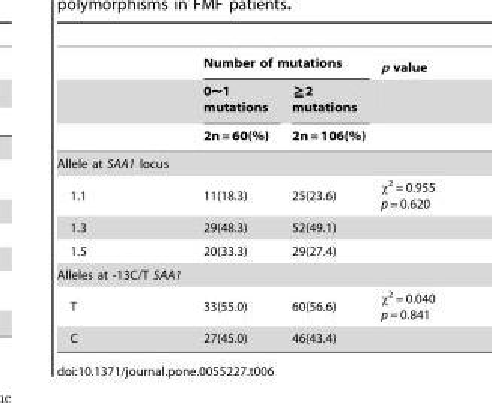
<table><thead><tr><td rowspan="3"></td><td colspan="2">Number of mutations</td><td rowspan="3">p value</td></tr><tr><td rowspan="2">0∼1 mutations 2n = 60(%)</td><td rowspan="2">≧2 mutations 2n = 106(%)</td></tr><tr></tr></thead><tbody><tr><td colspan="4">Allele at SAA1 locus</td></tr><tr><td>1.1</td><td>11(18.3)</td><td>25(23.6)</td><td>χ<sup>2</sup> = 0.955 p = 0.620</td></tr><tr><td>1.3</td><td>29(48.3)</td><td>52(49.1)</td><td></td></tr><tr><td>1.5</td><td>20(33.3)</td><td>29(27.4)</td><td></td></tr><tr><td colspan="4">Alleles at -13C/T SAA1</td></tr><tr><td>T</td><td>33(55.0)</td><td>60(56.6)</td><td>χ<sup>2</sup> = 0.040 p = 0.841</td></tr><tr><td>C</td><td>27(45.0)</td><td>46(43.4)</td><td></td></tr></tbody></table>